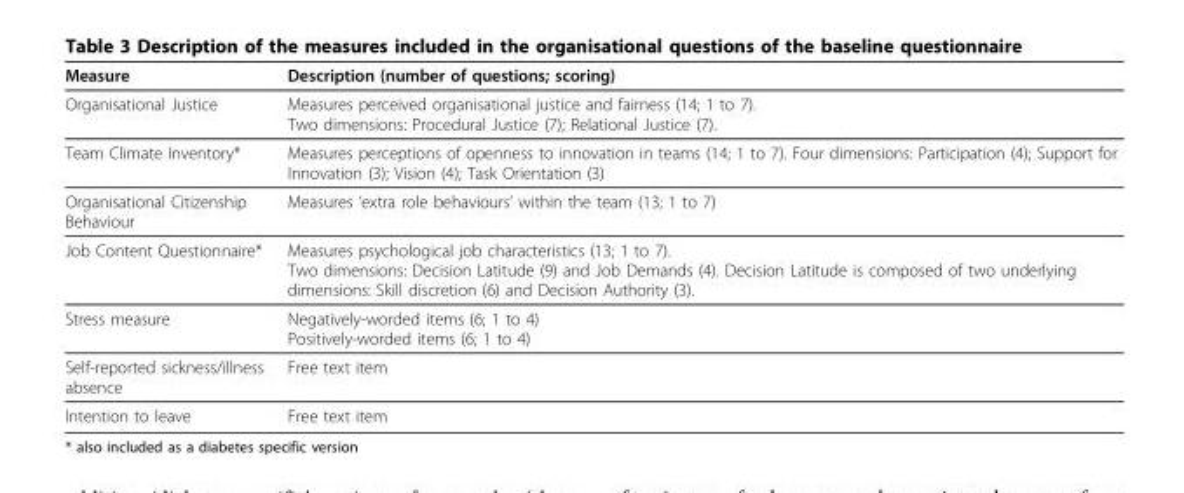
<table><thead><tr><td>Measure</td><td>Description (number of questions; scoring)</td></tr></thead><tbody><tr><td>Organisational Justice</td><td>Measures perceived organisational justice and fairness (14; 1 to 7). Two dimensions: Procedural Justice (7); Relational Justice (7).</td></tr><tr><td>Team Climate Inventory*</td><td>Measures perceptions of openness to innovation in teams (14; 1 to 7). Four dimensions: Participation (4); Support for Innovation (3); Vision (4); Task Orientation (3)</td></tr><tr><td>Organisational Citizenship Behaviour</td><td>Measures ‘extra role behaviours’ within the team (13; 1 to 7)</td></tr><tr><td>Job Content Questionnaire*</td><td>Measures psychological job characteristics (13; 1 to 7). Two dimensions: Decision Latitude (9) and Job Demands (4). Decision Latitude is composed of two underlying dimensions: Skill discretion (6) and Decision Authority (3).</td></tr><tr><td>Stress measure</td><td>Negatively-worded items (6; 1 to 4) Positively-worded items (6; 1 to 4)</td></tr><tr><td>Self-reported sickness/illness absence</td><td>Free text item</td></tr><tr><td>Intention to leave</td><td>Free text item</td></tr></tbody></table>